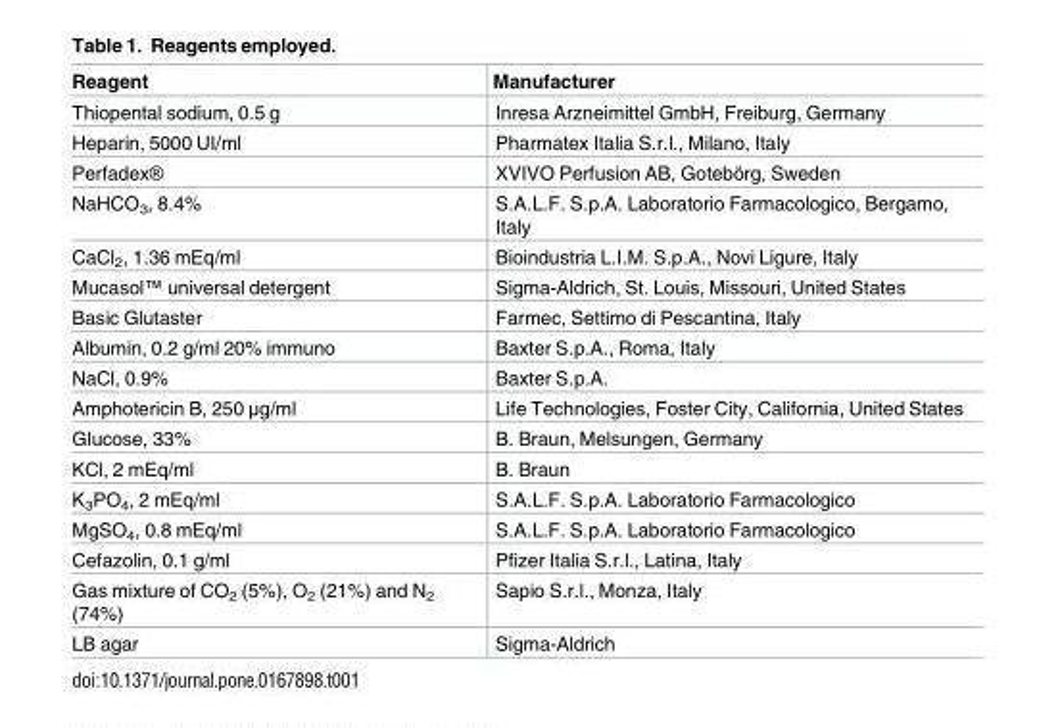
<table><thead><tr><td>Reagent</td><td>Manufacturer</td></tr></thead><tbody><tr><td>Thiopental sodium, 0.5 g</td><td>Inresa Arzneimittel GmbH, Freiburg, Germany</td></tr><tr><td>Heparin, 5000 UI/ml</td><td>Pharmatex Italia S.r.l., Milano, Italy</td></tr><tr><td>Perfadex®</td><td>XVIVO Perfusion AB, Gotebo¨rg, Sweden</td></tr><tr><td>NaHCO<sub>3</sub>, 8.4%</td><td>S.A.L.F. S.p.A. Laboratorio Farmacologico, Bergamo, Italy</td></tr><tr><td>CaCl<sub>2</sub>, 1.36 mEq/ml</td><td>Bioindustria L.I.M. S.p.A., Novi Ligure, Italy</td></tr><tr><td>Mucasol™ universal detergent</td><td>Sigma-Aldrich, St. Louis, Missouri, United States</td></tr><tr><td>Basic Glutaster</td><td>Farmec, Settimo di Pescantina, Italy</td></tr><tr><td>Albumin, 0.2 g/ml 20% immuno</td><td>Baxter S.p.A., Roma, Italy</td></tr><tr><td>NaCl, 0.9%</td><td>Baxter S.p.A.</td></tr><tr><td>Amphotericin B, 250 μg/ml</td><td>Life Technologies, Foster City, California, United States</td></tr><tr><td>Glucose, 33%</td><td>B. Braun, Melsungen, Germany</td></tr><tr><td>KCl, 2 mEq/ml</td><td>B. Braun</td></tr><tr><td>K<sub>3</sub>PO<sub>4</sub>, 2 mEq/ml</td><td>S.A.L.F. S.p.A. Laboratorio Farmacologico</td></tr><tr><td>MgSO<sub>4</sub>, 0.8 mEq/ml</td><td>S.A.L.F. S.p.A. Laboratorio Farmacologico</td></tr><tr><td>Cefazolin, 0.1 g/ml</td><td>Pfizer Italia S.r.l., Latina, Italy</td></tr><tr><td>Gas mixture of CO<sub>2</sub> (5%), O<sub>2</sub> (21%) and N<sub>2</sub> (74%)</td><td>Sapio S.r.l., Monza, Italy</td></tr><tr><td>LB agar</td><td>Sigma-Aldrich</td></tr></tbody></table>